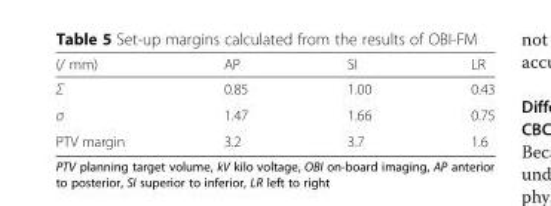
<table><thead><tr><td>(/ mm)</td><td>AP</td><td>SI</td><td>LR</td></tr></thead><tbody><tr><td>Σ</td><td>0.85</td><td>1.00</td><td>0.43</td></tr><tr><td>σ</td><td>1.47</td><td>1.66</td><td>0.75</td></tr><tr><td>PTV margin</td><td>3.2</td><td>3.7</td><td>1.6</td></tr></tbody></table>